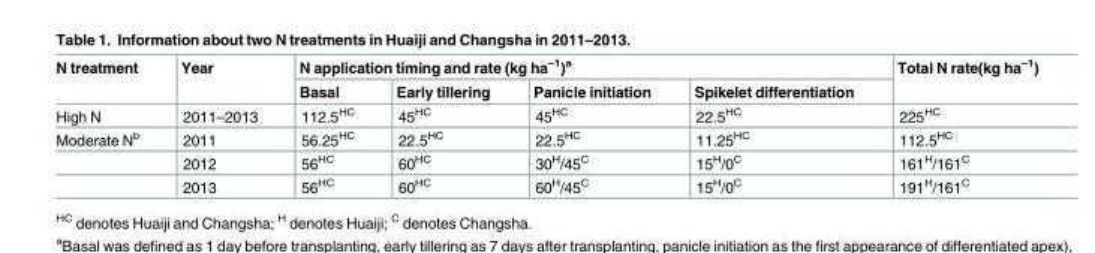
<table><thead><tr><td rowspan="2">N treatment</td><td rowspan="2">Year</td><td colspan="4">N application timing and rate (kg ha<sup>–1</sup>)<sup>a</sup></td><td rowspan="2">Total N rate(kg ha<sup>–1</sup>)</td></tr><tr><td>Basal</td><td>Early tillering</td><td>Panicle initiation</td><td>Spikelet differentiation</td></tr></thead><tbody><tr><td>High N</td><td>2011–2013</td><td>112.5<sup>HC</sup></td><td>45<sup>HC</sup></td><td>45<sup>HC</sup></td><td>22.5<sup>HC</sup></td><td>225<sup>HC</sup></td></tr><tr><td rowspan="3">Moderate N<sup>b</sup></td><td>2011</td><td>56.25<sup>HC</sup></td><td>22.5<sup>HC</sup></td><td>22.5<sup>HC</sup></td><td>11.25<sup>HC</sup></td><td>112.5<sup>HC</sup></td></tr><tr><td>2012</td><td>56<sup>HC</sup></td><td>60<sup>HC</sup></td><td>30<sup>H</sup>/45<sup>C</sup></td><td>15<sup>H</sup>/0<sup>C</sup></td><td>161<sup>H</sup>/161<sup>C</sup></td></tr><tr><td>2013</td><td>56<sup>HC</sup></td><td>60<sup>HC</sup></td><td>60<sup>H</sup>/45<sup>C</sup></td><td>15<sup>H</sup>/0<sup>C</sup></td><td>191<sup>H</sup>/161<sup>C</sup></td></tr></tbody></table>